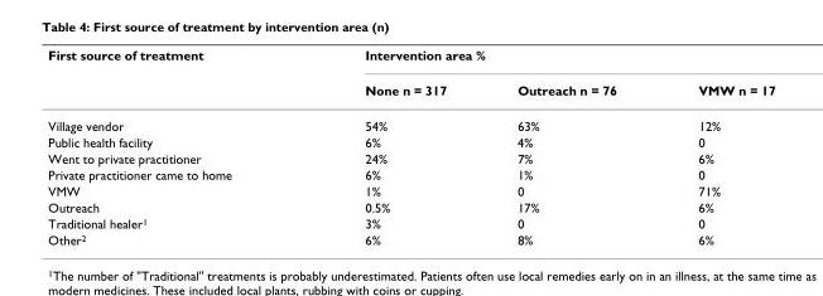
<table><thead><tr><td rowspan="2">First source of treatment</td><td colspan="3">Intervention area %</td></tr><tr><td>None n = 317</td><td>Outreach n = 76</td><td>VMW n = 17</td></tr></thead><tbody><tr><td>Village vendor</td><td>54%</td><td>63%</td><td>12%</td></tr><tr><td>Public health facility</td><td>6%</td><td>4%</td><td>0</td></tr><tr><td>Went to private practitioner</td><td>24%</td><td>7%</td><td>6%</td></tr><tr><td>Private practitioner came to home</td><td>6%</td><td>1%</td><td>0</td></tr><tr><td>VMW</td><td>1%</td><td>0</td><td>71%</td></tr><tr><td>Outreach</td><td>0.5%</td><td>17%</td><td>6%</td></tr><tr><td>Traditional healer<sup>1</sup></td><td>3%</td><td>0</td><td>0</td></tr><tr><td>Other<sup>2</sup></td><td>6%</td><td>8%</td><td>6%</td></tr></tbody></table>